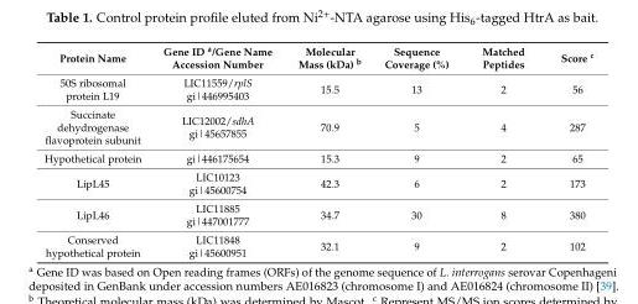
<table><thead><tr><td>Protein Name</td><td>Gene ID <sup>a</sup>/Gene Name Accession Number</td><td>Molecular Mass (kDa) <sup>b</sup></td><td>Sequence Coverage (%)</td><td>Matched Peptides</td><td>Score <sup>c</sup></td></tr></thead><tbody><tr><td>50S ribosomal protein L19</td><td>LIC11559/rplS gi|446995403</td><td>15.5</td><td>13</td><td>2</td><td>56</td></tr><tr><td>Succinate dehydrogenase flavoprotein subunit</td><td>LIC12002/sdhA gi|45657855</td><td>70.9</td><td>5</td><td>4</td><td>287</td></tr><tr><td>Hypothetical protein</td><td>gi|446175654</td><td>15.3</td><td>9</td><td>2</td><td>65</td></tr><tr><td>LipL45</td><td>LIC10123 gi|45600754</td><td>42.3</td><td>6</td><td>2</td><td>173</td></tr><tr><td>LipL46</td><td>LIC11885 gi|447001777</td><td>34.7</td><td>30</td><td>8</td><td>380</td></tr><tr><td>Conserved hypothetical protein</td><td>LIC11848 gi|45600951</td><td>32.1</td><td>9</td><td>2</td><td>102</td></tr></tbody></table>